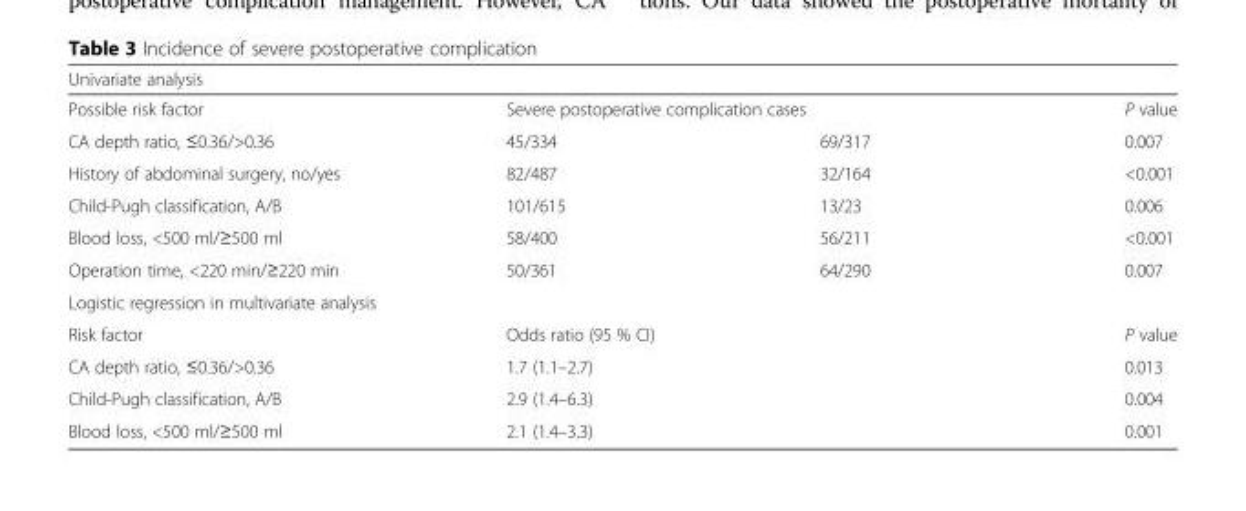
<table><thead><tr><td colspan="4">Univariate analysis</td></tr><tr><td rowspan="2">Possible risk factor CA depth ratio, ≤0.36/&gt;0.36</td><td colspan="2">Severe postoperative complication cases</td><td rowspan="2">P value 0.007</td></tr><tr><td>45/334</td><td>69/317</td></tr></thead><tbody><tr><td>History of abdominal surgery, no/yes</td><td>82/487</td><td>32/164</td><td>&lt;0.001</td></tr><tr><td>Child-Pugh classification, A/B</td><td>101/615</td><td>13/23</td><td>0.006</td></tr><tr><td>Blood loss, &lt;500 ml/≥500 ml</td><td>58/400</td><td>56/211</td><td>&lt;0.001</td></tr><tr><td>Operation time, &lt;220 min/≥220 min</td><td>50/361</td><td>64/290</td><td>0.007</td></tr><tr><td colspan="4">Logistic regression in multivariate analysis</td></tr><tr><td>Risk factor</td><td colspan="2">Odds ratio (95 % CI)</td><td>P value</td></tr><tr><td>CA depth ratio, ≤0.36/&gt;0.36</td><td colspan="2">1.7 (1.1–2.7)</td><td>0.013</td></tr><tr><td>Child-Pugh classification, A/B</td><td colspan="2">2.9 (1.4–6.3)</td><td>0.004</td></tr><tr><td>Blood loss, &lt;500 ml/≥500 ml</td><td colspan="2">2.1 (1.4–3.3)</td><td>0.001</td></tr></tbody></table>